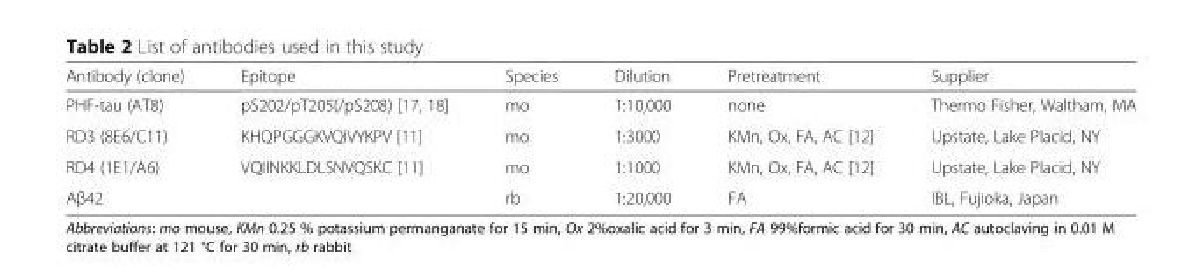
<table><thead><tr><td>Antibody (clone)</td><td>Epitope</td><td>Species</td><td>Dilution</td><td>Pretreatment</td><td>Supplier</td></tr></thead><tbody><tr><td>PHF-tau (AT8)</td><td>pS202/pT205(/pS208) [17, 18]</td><td>mo</td><td>1:10,000</td><td>none</td><td>Thermo Fisher, Waltham, MA</td></tr><tr><td>RD3 (8E6/C11)</td><td>KHQPGGGKVQIVYKPV [11]</td><td>mo</td><td>1:3000</td><td>KMn, Ox, FA, AC [12]</td><td>Upstate, Lake Placid, NY</td></tr><tr><td>RD4 (1E1/A6)</td><td>VQIINKKLDLSNVQSKC [11]</td><td>mo</td><td>1:1000</td><td>KMn, Ox, FA, AC [12]</td><td>Upstate, Lake Placid, NY</td></tr><tr><td>Aβ42</td><td></td><td>rb</td><td>1:20,000</td><td>FA</td><td>IBL, Fujioka, Japan</td></tr></tbody></table>